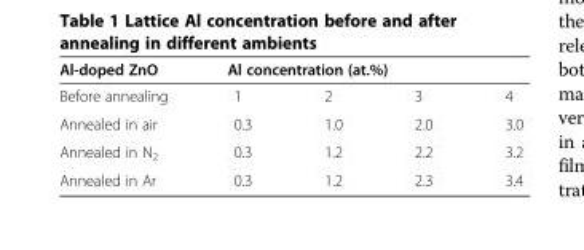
<table><thead><tr><td rowspan="2">Al-doped ZnO Before annealing</td><td colspan="4">Al concentration (at.%)</td></tr><tr><td>1</td><td>2</td><td>3</td><td>4</td></tr></thead><tbody><tr><td>Annealed in air</td><td>0.3</td><td>1.0</td><td>2.0</td><td>3.0</td></tr><tr><td>Annealed in N<sub>2</sub></td><td>0.3</td><td>1.2</td><td>2.2</td><td>3.2</td></tr><tr><td>Annealed in Ar</td><td>0.3</td><td>1.2</td><td>2.3</td><td>3.4</td></tr></tbody></table>